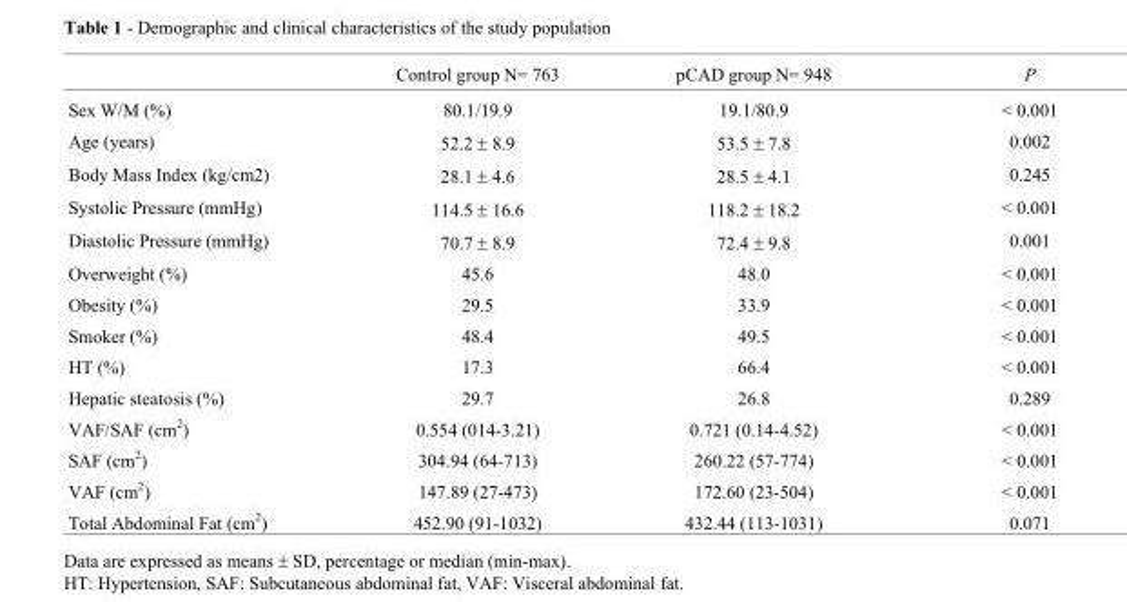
<table><thead><tr><td></td><td>Control group N= 763</td><td>pCAD group N= 948</td><td>P</td></tr></thead><tbody><tr><td>Sex W/M (%)</td><td>80.1/19.9</td><td>19.1/80.9</td><td>&lt; 0.001</td></tr><tr><td>Age (years)</td><td>52.2 ± 8.9</td><td>53.5 ± 7.8</td><td>0.002</td></tr><tr><td>Body Mass Index (kg/cm2)</td><td>28.1 ± 4.6</td><td>28.5 ± 4.1</td><td>0.245</td></tr><tr><td>Systolic Pressure (mmHg)</td><td>114.5 ± 16.6</td><td>118.2 ± 18.2</td><td>&lt; 0.001</td></tr><tr><td>Diastolic Pressure (mmHg)</td><td>70.7 ± 8.9</td><td>72.4 ± 9.8</td><td>0.001</td></tr><tr><td>Overweight (%)</td><td>45.6</td><td>48.0</td><td>&lt; 0.001</td></tr><tr><td>Obesity (%)</td><td>29.5</td><td>33.9</td><td>&lt; 0.001</td></tr><tr><td>Smoker (%)</td><td>48.4</td><td>49.5</td><td>&lt; 0.001</td></tr><tr><td>HT (%)</td><td>17.3</td><td>66.4</td><td>&lt; 0.001</td></tr><tr><td>Hepatic steatosis (%)</td><td>29.7</td><td>26.8</td><td>0.289</td></tr><tr><td>VAF/SAF (cm<sup>2</sup>)</td><td>0.554 (014-3.21)</td><td>0.721 (0.14-4.52)</td><td>&lt; 0.001</td></tr><tr><td>SAF (cm<sup>2</sup>)</td><td>304.94 (64-713)</td><td>260.22 (57-774)</td><td>&lt; 0.001</td></tr><tr><td>VAF (cm<sup>2</sup>)</td><td>147.89 (27-473)</td><td>172.60 (23-504)</td><td>&lt; 0.001</td></tr><tr><td>Total Abdominal Fat (cm<sup>2</sup>)</td><td>452.90 (91-1032)</td><td>432.44 (113-1031)</td><td>0.071</td></tr></tbody></table>